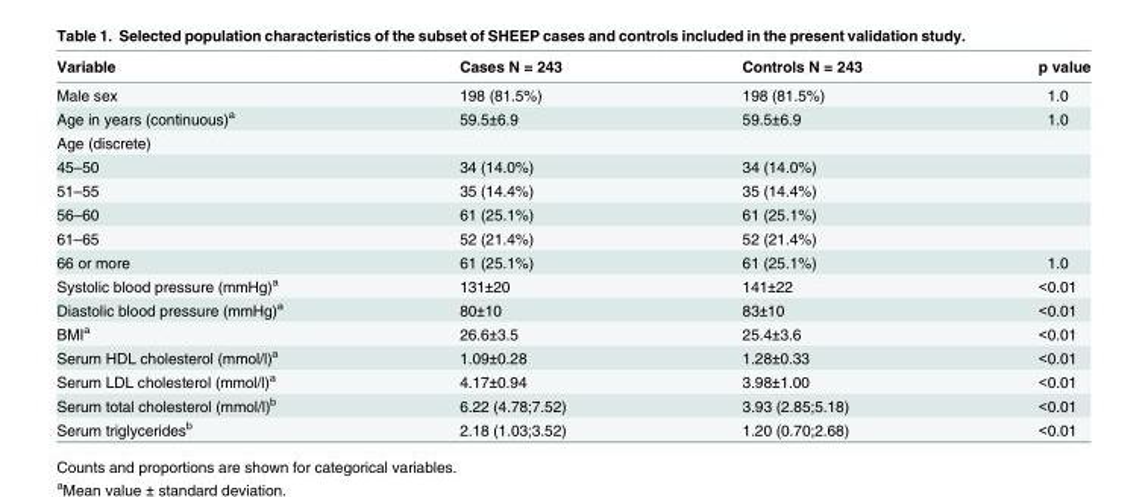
<table><thead><tr><td>Variable</td><td>Cases N = 243</td><td>Controls N = 243</td><td>p value</td></tr></thead><tbody><tr><td>Male sex</td><td>198 (81.5%)</td><td>198 (81.5%)</td><td>1.0</td></tr><tr><td>Age in years (continuous)<sup>a</sup></td><td>59.5±6.9</td><td>59.5±6.9</td><td>1.0</td></tr><tr><td colspan="4">Age (discrete)</td></tr><tr><td>45–50</td><td>34 (14.0%)</td><td>34 (14.0%)</td><td></td></tr><tr><td>51–55</td><td>35 (14.4%)</td><td>35 (14.4%)</td><td></td></tr><tr><td>56–60</td><td>61 (25.1%)</td><td>61 (25.1%)</td><td></td></tr><tr><td>61–65</td><td>52 (21.4%)</td><td>52 (21.4%)</td><td></td></tr><tr><td>66 or more</td><td>61 (25.1%)</td><td>61 (25.1%)</td><td>1.0</td></tr><tr><td>Systolic blood pressure (mmHg)<sup>a</sup></td><td>131±20</td><td>141±22</td><td>&lt;0.01</td></tr><tr><td>Diastolic blood pressure (mmHg)<sup>a</sup></td><td>80±10</td><td>83±10</td><td>&lt;0.01</td></tr><tr><td>BMI<sup>a</sup></td><td>26.6±3.5</td><td>25.4±3.6</td><td>&lt;0.01</td></tr><tr><td>Serum HDL cholesterol (mmol/l)<sup>a</sup></td><td>1.09±0.28</td><td>1.28±0.33</td><td>&lt;0.01</td></tr><tr><td>Serum LDL cholesterol (mmol/l)<sup>a</sup></td><td>4.17±0.94</td><td>3.98±1.00</td><td>&lt;0.01</td></tr><tr><td>Serum total cholesterol (mmol/l)<sup>b</sup></td><td>6.22 (4.78;7.52)</td><td>3.93 (2.85;5.18)</td><td>&lt;0.01</td></tr><tr><td>Serum triglycerides<sup>b</sup></td><td>2.18 (1.03;3.52)</td><td>1.20 (0.70;2.68)</td><td>&lt;0.01</td></tr></tbody></table>